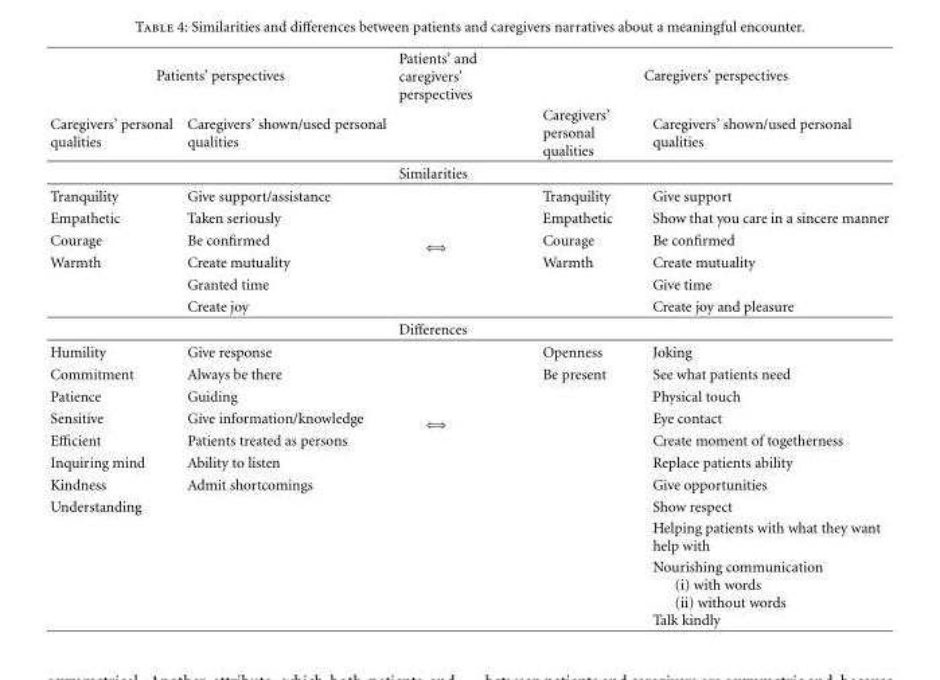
<table><thead><tr><td colspan="2">Patients’ perspectives</td><td rowspan="2">Patients’ and caregivers’ perspectives</td><td colspan="2">Caregivers’ perspectives</td></tr><tr><td>Caregivers’ personal qualities</td><td>Caregivers’ shown/used personal qualities</td><td>Caregivers’ personal qualities</td><td>Caregivers’ shown/used personal qualities</td></tr></thead><tbody><tr><td></td><td></td><td>Similarities</td><td></td><td></td></tr><tr><td>Tranquility</td><td>Give support/assistance</td><td rowspan="6">⇐⇒</td><td>Tranquility</td><td>Give support</td></tr><tr><td>Empathetic</td><td>Taken seriously</td><td>Empathetic</td><td>Show that you care in a sincere manner</td></tr><tr><td>Courage</td><td>Be confirmed</td><td>Courage</td><td>Be confirmed</td></tr><tr><td rowspan="4">Warmth</td><td>Create mutuality</td><td>Warmth</td><td>Create mutuality</td></tr><tr><td>Granted time</td><td></td><td>Give time</td></tr><tr><td>Create joy</td><td></td><td>Create joy and pleasure</td></tr><tr><td></td><td>Differences</td><td></td><td></td></tr><tr><td>Humility</td><td>Give response</td><td rowspan="8">⇐⇒</td><td>Openness</td><td>Joking</td></tr><tr><td>Commitment</td><td>Always be there</td><td>Be present</td><td>See what patients need</td></tr><tr><td>Patience</td><td>Guiding</td><td rowspan="6"></td><td>Physical touch</td></tr><tr><td>Sensitive</td><td>Give information/knowledge</td><td>Eye contact</td></tr><tr><td>Efficient</td><td>Patients treated as persons</td><td>Create moment of togetherness</td></tr><tr><td>Inquiring mind</td><td>Ability to listen</td><td>Replace patients ability</td></tr><tr><td>Kindness</td><td>Admit shortcomings</td><td>Give opportunities</td></tr><tr><td rowspan="3">Understanding</td><td></td><td>Show respect</td></tr><tr><td></td><td></td><td></td><td>Helping patients with what they want help with</td></tr><tr><td></td><td></td><td></td><td>Nourishing communication (i) with words (ii) without words Talk kindly</td></tr></tbody></table>